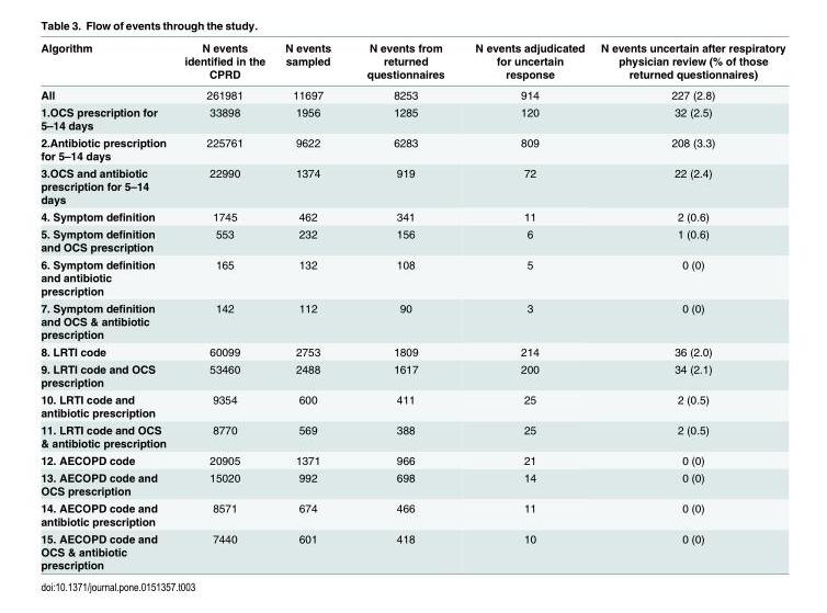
<table><thead><tr><td>Algorithm</td><td>N events identified in the CPRD</td><td>N events sampled</td><td>N events from returned questionnaires</td><td>N events adjudicated for uncertain response</td><td>N events uncertain after respiratory physician review (% of those returned questionnaires)</td></tr></thead><tbody><tr><td>All</td><td>261981</td><td>11697</td><td>8253</td><td>914</td><td>227 (2.8)</td></tr><tr><td>1.OCS prescription for 5–14 days</td><td>33898</td><td>1956</td><td>1285</td><td>120</td><td>32 (2.5)</td></tr><tr><td>2.Antibiotic prescription for 5–14 days</td><td>225761</td><td>9622</td><td>6283</td><td>809</td><td>208 (3.3)</td></tr><tr><td>3.OCS and antibiotic prescription for 5–14 days</td><td>22990</td><td>1374</td><td>919</td><td>72</td><td>22 (2.4)</td></tr><tr><td>4. Symptom definition</td><td>1745</td><td>462</td><td>341</td><td>11</td><td>2 (0.6)</td></tr><tr><td>5. Symptom definition and OCS prescription</td><td>553</td><td>232</td><td>156</td><td>6</td><td>1 (0.6)</td></tr><tr><td>6. Symptom definition and antibiotic prescription</td><td>165</td><td>132</td><td>108</td><td>5</td><td>0 (0)</td></tr><tr><td>7. Symptom definition and OCS &amp; antibiotic prescription</td><td>142</td><td>112</td><td>90</td><td>3</td><td>0 (0)</td></tr><tr><td>8. LRTI code</td><td>60099</td><td>2753</td><td>1809</td><td>214</td><td>36 (2.0)</td></tr><tr><td>9. LRTI code and OCS prescription</td><td>53460</td><td>2488</td><td>1617</td><td>200</td><td>34 (2.1)</td></tr><tr><td>10. LRTI code and antibiotic prescription</td><td>9354</td><td>600</td><td>411</td><td>25</td><td>2 (0.5)</td></tr><tr><td>11. LRTI code and OCS &amp; antibiotic prescription</td><td>8770</td><td>569</td><td>388</td><td>25</td><td>2 (0.5)</td></tr><tr><td>12. AECOPD code</td><td>20905</td><td>1371</td><td>966</td><td>21</td><td>0 (0)</td></tr><tr><td>13. AECOPD code and OCS prescription</td><td>15020</td><td>992</td><td>698</td><td>14</td><td>0 (0)</td></tr><tr><td>14. AECOPD code and antibiotic prescription</td><td>8571</td><td>674</td><td>466</td><td>11</td><td>0 (0)</td></tr><tr><td>15. AECOPD code and OCS &amp; antibiotic prescription</td><td>7440</td><td>601</td><td>418</td><td>10</td><td>0 (0)</td></tr></tbody></table>